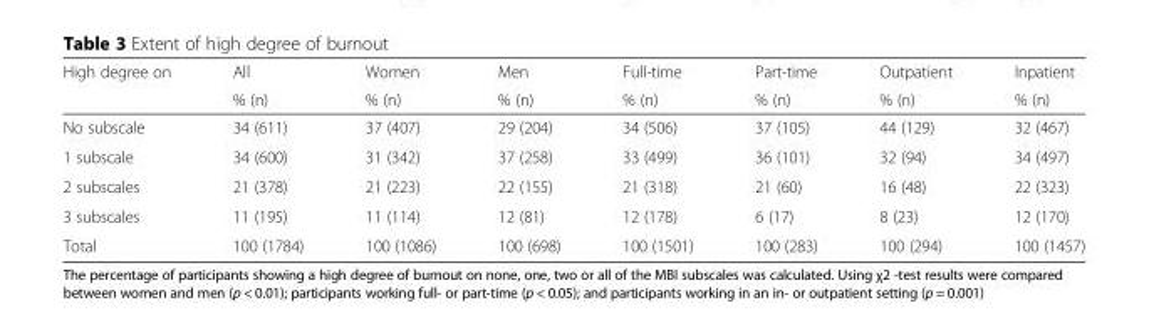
<table><thead><tr><td rowspan="2">High degree on</td><td rowspan="2">All % (n)</td><td rowspan="2">Women % (n)</td><td rowspan="2">Men % (n)</td><td rowspan="2">Full-time % (n)</td><td rowspan="2">Part-time % (n)</td><td rowspan="2">Outpatient % (n)</td><td rowspan="2">Inpatient % (n)</td></tr><tr></tr></thead><tbody><tr><td>No subscale</td><td>34 (611)</td><td>37 (407)</td><td>29 (204)</td><td>34 (506)</td><td>37 (105)</td><td>44 (129)</td><td>32 (467)</td></tr><tr><td>1 subscale</td><td>34 (600)</td><td>31 (342)</td><td>37 (258)</td><td>33 (499)</td><td>36 (101)</td><td>32 (94)</td><td>34 (497)</td></tr><tr><td>2 subscales</td><td>21 (378)</td><td>21 (223)</td><td>22 (155)</td><td>21 (318)</td><td>21 (60)</td><td>16 (48)</td><td>22 (323)</td></tr><tr><td>3 subscales</td><td>11 (195)</td><td>11 (114)</td><td>12 (81)</td><td>12 (178)</td><td>6 (17)</td><td>8 (23)</td><td>12 (170)</td></tr><tr><td>Total</td><td>100 (1784)</td><td>100 (1086)</td><td>100 (698)</td><td>100 (1501)</td><td>100 (283)</td><td>100 (294)</td><td>100 (1457)</td></tr></tbody></table>